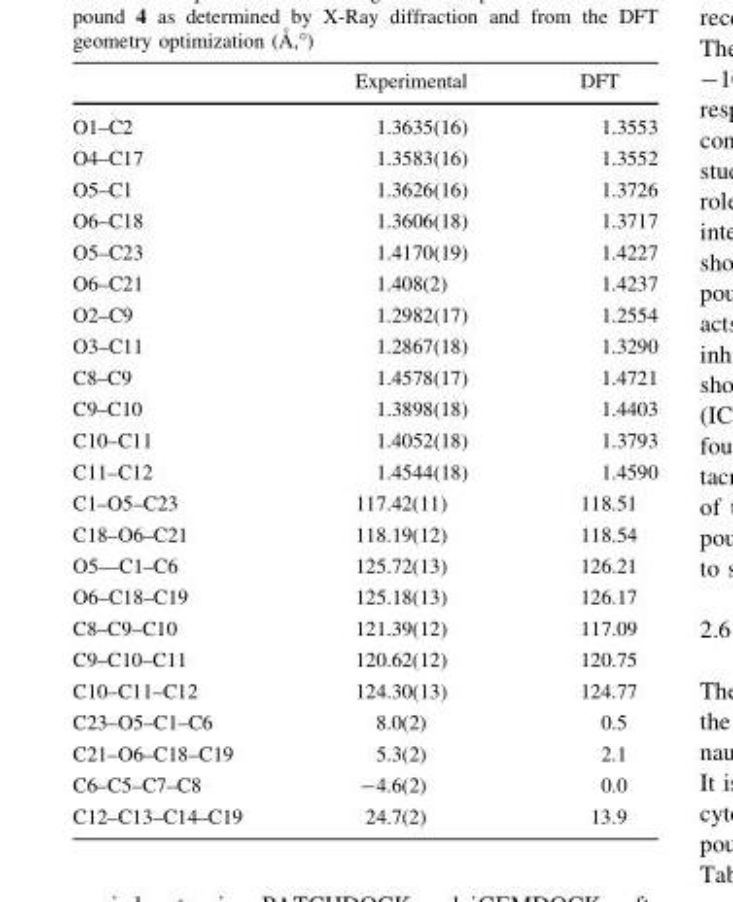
<table><thead><tr><td></td><td>Experimental</td><td>DFT</td></tr></thead><tbody><tr><td>O1–C2</td><td>1.3635(16)</td><td>1.3553</td></tr><tr><td>O4–C17</td><td>1.3583(16)</td><td>1.3552</td></tr><tr><td>O5–C1</td><td>1.3626(16)</td><td>1.3726</td></tr><tr><td>O6–C18</td><td>1.3606(18)</td><td>1.3717</td></tr><tr><td>O5–C23</td><td>1.4170(19)</td><td>1.4227</td></tr><tr><td>O6–C21</td><td>1.408(2)</td><td>1.4237</td></tr><tr><td>O2–C9</td><td>1.2982(17)</td><td>1.2554</td></tr><tr><td>O3–C11</td><td>1.2867(18)</td><td>1.3290</td></tr><tr><td>C8–C9</td><td>1.4578(17)</td><td>1.4721</td></tr><tr><td>C9–C10</td><td>1.3898(18)</td><td>1.4403</td></tr><tr><td>C10–C11</td><td>1.4052(18)</td><td>1.3793</td></tr><tr><td>C11–C12</td><td>1.4544(18)</td><td>1.4590</td></tr><tr><td>C1–O5–C23</td><td>117.42(11)</td><td>118.51</td></tr><tr><td>C18–O6–C21</td><td>118.19(12)</td><td>118.54</td></tr><tr><td>O5—C1–C6</td><td>125.72(13)</td><td>126.21</td></tr><tr><td>O6–C18–C19</td><td>125.18(13)</td><td>126.17</td></tr><tr><td>C8–C9–C10</td><td>121.39(12)</td><td>117.09</td></tr><tr><td>C9–C10–C11</td><td>120.62(12)</td><td>120.75</td></tr><tr><td>C10–C11–C12</td><td>124.30(13)</td><td>124.77</td></tr><tr><td>C23–O5–C1–C6</td><td>8.0(2)</td><td>0.5</td></tr><tr><td>C21–O6–C18–C19</td><td>5.3(2)</td><td>2.1</td></tr><tr><td>C6–C5–C7–C8</td><td>-4.6(2)</td><td>0.0</td></tr><tr><td>C12–C13–C14–C19</td><td>24.7(2)</td><td>13.9</td></tr></tbody></table>